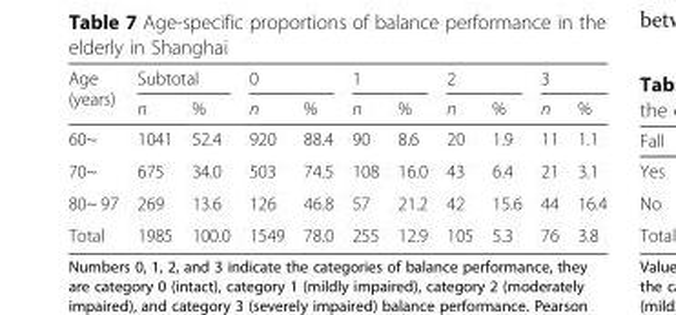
<table><thead><tr><td rowspan="2">Age (years)</td><td colspan="2">Subtotal</td><td colspan="2">0</td><td colspan="2">1</td><td colspan="2">2</td><td colspan="2">3</td></tr><tr><td>n</td><td>%</td><td>n</td><td>%</td><td>n</td><td>%</td><td>n</td><td>%</td><td>n</td><td>%</td></tr></thead><tbody><tr><td>60~</td><td>1041</td><td>52.4</td><td>920</td><td>88.4</td><td>90</td><td>8.6</td><td>20</td><td>1.9</td><td>11</td><td>1.1</td></tr><tr><td>70~</td><td>675</td><td>34.0</td><td>503</td><td>74.5</td><td>108</td><td>16.0</td><td>43</td><td>6.4</td><td>21</td><td>3.1</td></tr><tr><td>80~ 97</td><td>269</td><td>13.6</td><td>126</td><td>46.8</td><td>57</td><td>21.2</td><td>42</td><td>15.6</td><td>44</td><td>16.4</td></tr><tr><td>Total</td><td>1985</td><td>100.0</td><td>1549</td><td>78.0</td><td>255</td><td>12.9</td><td>105</td><td>5.3</td><td>76</td><td>3.8</td></tr></tbody></table>